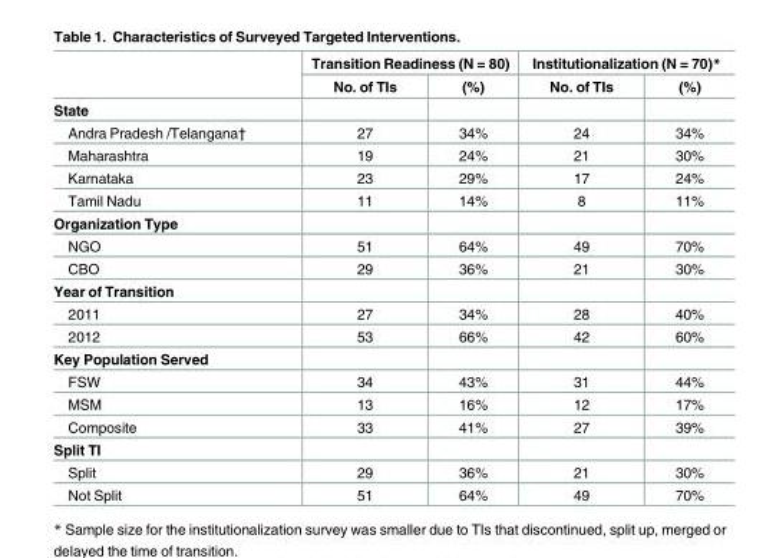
<table><thead><tr><td rowspan="2"></td><td colspan="2">Transition Readiness (N = 80)</td><td colspan="2">Institutionalization (N = 70)*</td></tr><tr><td>No. of TIs</td><td>(%)</td><td>No. of TIs</td><td>(%)</td></tr></thead><tbody><tr><td colspan="5">State</td></tr><tr><td>Andra Pradesh /Telangana†</td><td>27</td><td>34%</td><td>24</td><td>34%</td></tr><tr><td>Maharashtra</td><td>19</td><td>24%</td><td>21</td><td>30%</td></tr><tr><td>Karnataka</td><td>23</td><td>29%</td><td>17</td><td>24%</td></tr><tr><td>Tamil Nadu</td><td>11</td><td>14%</td><td>8</td><td>11%</td></tr><tr><td colspan="5">Organization Type</td></tr><tr><td>NGO</td><td>51</td><td>64%</td><td>49</td><td>70%</td></tr><tr><td>CBO</td><td>29</td><td>36%</td><td>21</td><td>30%</td></tr><tr><td colspan="5">Year of Transition</td></tr><tr><td>2011</td><td>27</td><td>34%</td><td>28</td><td>40%</td></tr><tr><td>2012</td><td>53</td><td>66%</td><td>42</td><td>60%</td></tr><tr><td colspan="5">Key Population Served</td></tr><tr><td>FSW</td><td>34</td><td>43%</td><td>31</td><td>44%</td></tr><tr><td>MSM</td><td>13</td><td>16%</td><td>12</td><td>17%</td></tr><tr><td>Composite</td><td>33</td><td>41%</td><td>27</td><td>39%</td></tr><tr><td colspan="5">Split TI</td></tr><tr><td>Split</td><td>29</td><td>36%</td><td>21</td><td>30%</td></tr><tr><td>Not Split</td><td>51</td><td>64%</td><td>49</td><td>70%</td></tr></tbody></table>